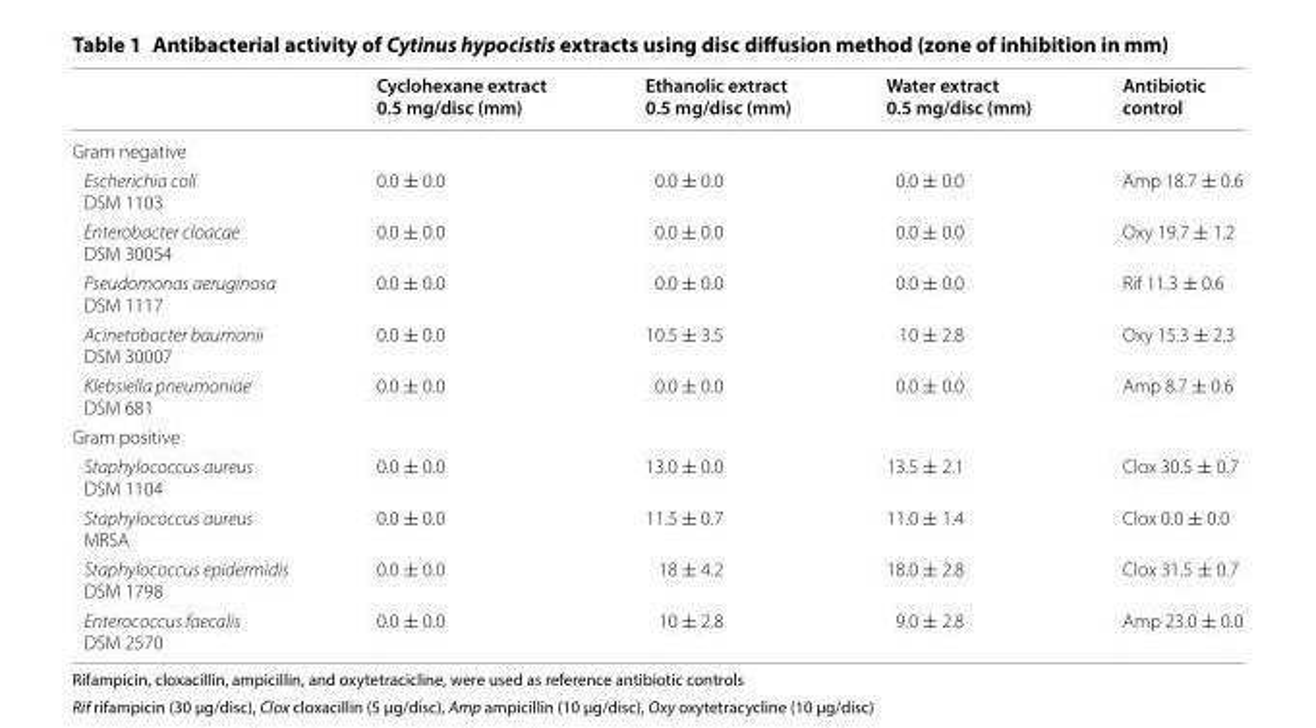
<table><thead><tr><td></td><td>Cyclohexane extract 0.5 mg/disc (mm)</td><td>Ethanolic extract 0.5 mg/disc (mm)</td><td>Water extract 0.5 mg/disc (mm)</td><td>Antibiotic control</td></tr></thead><tbody><tr><td colspan="5">Gram negative</td></tr><tr><td>Escherichia coli DSM 1103</td><td>0.0 ± 0.0</td><td>0.0 ± 0.0</td><td>0.0 ± 0.0</td><td>Amp 18.7 ± 0.6</td></tr><tr><td>Enterobacter cloacae DSM 30054</td><td>0.0 ± 0.0</td><td>0.0 ± 0.0</td><td>0.0 ± 0.0</td><td>Oxy 19.7 ± 1.2</td></tr><tr><td>Pseudomonas aeruginosa DSM 1117</td><td>0.0 ± 0.0</td><td>0.0 ± 0.0</td><td>0.0 ± 0.0</td><td>Rif 11.3 ± 0.6</td></tr><tr><td>Acinetobacter baumanii DSM 30007</td><td>0.0 ± 0.0</td><td>10.5 ± 3.5</td><td>10 ± 2.8</td><td>Oxy 15.3 ± 2.3</td></tr><tr><td>Klebsiella pneumoniae DSM 681</td><td>0.0 ± 0.0</td><td>0.0 ± 0.0</td><td>0.0 ± 0.0</td><td>Amp 8.7 ± 0.6</td></tr><tr><td colspan="5">Gram positive</td></tr><tr><td>Staphylococcus aureus DSM 1104</td><td>0.0 ± 0.0</td><td>13.0 ± 0.0</td><td>13.5 ± 2.1</td><td>Clox 30.5 ± 0.7</td></tr><tr><td>Staphylococcus aureus MRSA</td><td>0.0 ± 0.0</td><td>11.5 ± 0.7</td><td>11.0 ± 1.4</td><td>Clox 0.0 ± 0.0</td></tr><tr><td>Staphylococcus epidermidis DSM 1798</td><td>0.0 ± 0.0</td><td>18 ± 4.2</td><td>18.0 ± 2.8</td><td>Clox 31.5 ± 0.7</td></tr><tr><td>Enterococcus faecalis DSM 2570</td><td>0.0 ± 0.0</td><td>10 ± 2.8</td><td>9.0 ± 2.8</td><td>Amp 23.0 ± 0.0</td></tr></tbody></table>